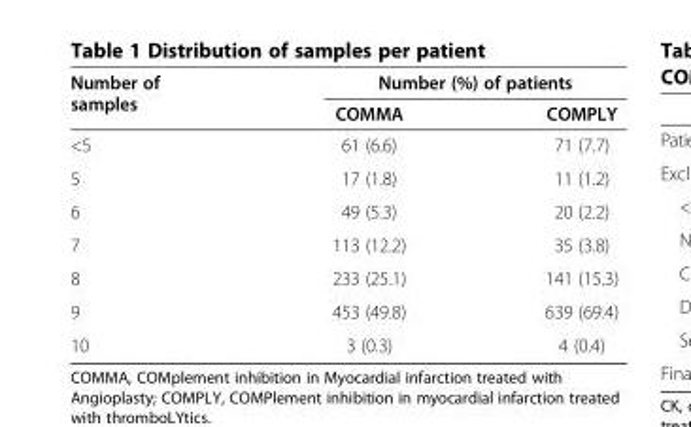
<table><thead><tr><td rowspan="2">Number of samples</td><td colspan="2">Number (%) of patients</td></tr><tr><td>COMMA</td><td>COMPLY</td></tr></thead><tbody><tr><td>&lt;5</td><td>61 (6.6)</td><td>71 (7.7)</td></tr><tr><td>5</td><td>17 (1.8)</td><td>11 (1.2)</td></tr><tr><td>6</td><td>49 (5.3)</td><td>20 (2.2)</td></tr><tr><td>7</td><td>113 (12.2)</td><td>35 (3.8)</td></tr><tr><td>8</td><td>233 (25.1)</td><td>141 (15.3)</td></tr><tr><td>9</td><td>453 (49.8)</td><td>639 (69.4)</td></tr><tr><td>10</td><td>3 (0.3)</td><td>4 (0.4)</td></tr></tbody></table>